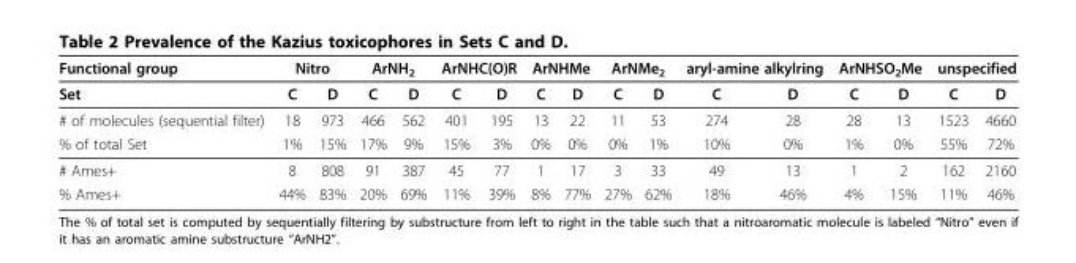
<table><thead><tr><td rowspan="2">Functional group Set</td><td colspan="2">Nitro</td><td colspan="2">ArNH<sub>2</sub></td><td colspan="2">ArNHC(O)R</td><td colspan="2">ArNHMe</td><td colspan="2">ArNMe<sub>2</sub></td><td colspan="2">aryl-amine alkylring</td><td colspan="2">ArNHSO<sub>2</sub>Me</td><td colspan="2">unspecified</td></tr><tr><td>C</td><td>D</td><td>C</td><td>D</td><td>C</td><td>D</td><td>C</td><td>D</td><td>C</td><td>D</td><td>C</td><td>D</td><td>C</td><td>D</td><td>C</td><td>D</td></tr></thead><tbody><tr><td># of molecules (sequential filter)</td><td>18</td><td>973</td><td>466</td><td>562</td><td>401</td><td>195</td><td>13</td><td>22</td><td>11</td><td>53</td><td>274</td><td>28</td><td>28</td><td>13</td><td>1523</td><td>4660</td></tr><tr><td>% of total Set</td><td>1%</td><td>15%</td><td>17%</td><td>9%</td><td>15%</td><td>3%</td><td>0%</td><td>0%</td><td>0%</td><td>1%</td><td>10%</td><td>0%</td><td>1%</td><td>0%</td><td>55%</td><td>72%</td></tr><tr><td># Ames+</td><td>8</td><td>808</td><td>91</td><td>387</td><td>45</td><td>77</td><td>1</td><td>17</td><td>3</td><td>33</td><td>49</td><td>13</td><td>1</td><td>2</td><td>162</td><td>2160</td></tr><tr><td>% Ames+</td><td>44%</td><td>83%</td><td>20%</td><td>69%</td><td>11%</td><td>39%</td><td>8%</td><td>77%</td><td>27%</td><td>62%</td><td>18%</td><td>46%</td><td>4%</td><td>15%</td><td>11%</td><td>46%</td></tr></tbody></table>